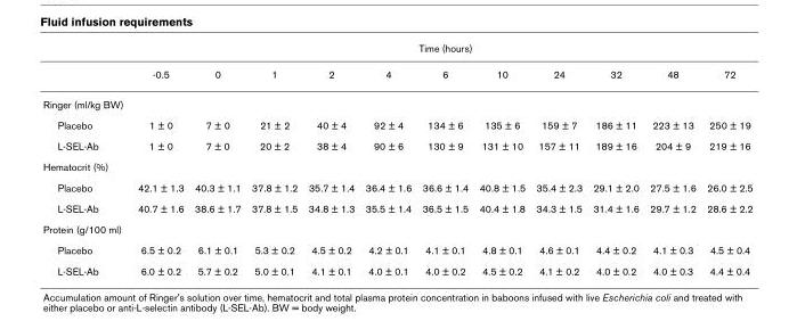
<table><thead><tr><td rowspan="2"></td><td colspan="11">Time (hours)</td></tr><tr><td>-0.5</td><td>0</td><td>1</td><td>2</td><td>4</td><td>6</td><td>10</td><td>24</td><td>32</td><td>48</td><td>72</td></tr></thead><tbody><tr><td colspan="12">Ringer (ml/kg BW)</td></tr><tr><td>Placebo</td><td>1 ± 0</td><td>7 ± 0</td><td>21 ± 2</td><td>40 ± 4</td><td>92 ± 4</td><td>134 ± 6</td><td>135 ± 6</td><td>159 ± 7</td><td>186 ± 11</td><td>223 ± 13</td><td>250 ± 19</td></tr><tr><td>L-SEL-Ab</td><td>1 ± 0</td><td>7 ± 0</td><td>20 ± 2</td><td>38 ± 4</td><td>90 ± 6</td><td>130 ± 9</td><td>131 ± 10</td><td>157 ± 11</td><td>189 ± 16</td><td>204 ± 9</td><td>219 ± 16</td></tr><tr><td colspan="12">Hematocrit (%)</td></tr><tr><td>Placebo</td><td>42.1 ± 1.3</td><td>40.3 ± 1.1</td><td>37.8 ± 1.2</td><td>35.7 ± 1.4</td><td>36.4 ± 1.6</td><td>36.6 ± 1.4</td><td>40.8 ± 1.5</td><td>35.4 ± 2.3</td><td>29.1 ± 2.0</td><td>27.5 ± 1.6</td><td>26.0 ± 2.5</td></tr><tr><td>L-SEL-Ab</td><td>40.7 ± 1.6</td><td>38.6 ± 1.7</td><td>37.8 ± 1.5</td><td>34.8 ± 1.3</td><td>35.5 ± 1.4</td><td>36.5 ± 1.5</td><td>40.4 ± 1.8</td><td>34.3 ± 1.5</td><td>31.4 ± 1.6</td><td>29.7 ± 1.2</td><td>28.6 ± 2.2</td></tr><tr><td colspan="12">Protein (g/100 ml)</td></tr><tr><td>Placebo</td><td>6.5 ± 0.2</td><td>6.1 ± 0.1</td><td>5.3 ± 0.2</td><td>4.5 ± 0.2</td><td>4.2 ± 0.1</td><td>4.1 ± 0.1</td><td>4.8 ± 0.1</td><td>4.6 ± 0.1</td><td>4.4 ± 0.2</td><td>4.1 ± 0.3</td><td>4.5 ± 0.4</td></tr><tr><td>L-SEL-Ab</td><td>6.0 ± 0.2</td><td>5.7 ± 0.2</td><td>5.0 ± 0.1</td><td>4.1 ± 0.1</td><td>4.0 ± 0.1</td><td>4.0 ± 0.2</td><td>4.5 ± 0.2</td><td>4.1 ± 0.2</td><td>4.0 ± 0.2</td><td>4.0 ± 0.3</td><td>4.4 ± 0.4</td></tr></tbody></table>